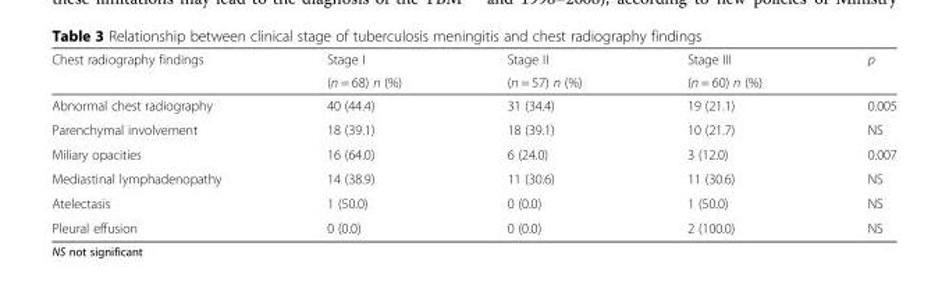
<table><thead><tr><td rowspan="2">Chest radiography findings</td><td rowspan="2">Stage I (n = 68) n (%)</td><td rowspan="2">Stage II (n = 57) n (%)</td><td rowspan="2">Stage III (n = 60) n (%)</td><td rowspan="2">p</td></tr><tr></tr></thead><tbody><tr><td>Abnormal chest radiography</td><td>40 (44.4)</td><td>31 (34.4)</td><td>19 (21.1)</td><td>0.005</td></tr><tr><td>Parenchymal involvement</td><td>18 (39.1)</td><td>18 (39.1)</td><td>10 (21.7)</td><td>NS</td></tr><tr><td>Miliary opacities</td><td>16 (64.0)</td><td>6 (24.0)</td><td>3 (12.0)</td><td>0.007</td></tr><tr><td>Mediastinal lymphadenopathy</td><td>14 (38.9)</td><td>11 (30.6)</td><td>11 (30.6)</td><td>NS</td></tr><tr><td>Atelectasis</td><td>1 (50.0)</td><td>0 (0.0)</td><td>1 (50.0)</td><td>NS</td></tr><tr><td>Pleural effusion</td><td>0 (0.0)</td><td>0 (0.0)</td><td>2 (100.0)</td><td>NS</td></tr></tbody></table>